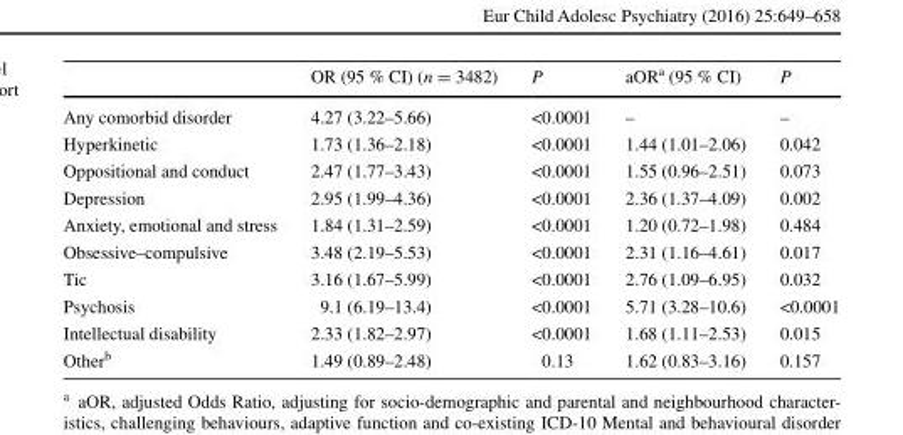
<table><thead><tr><td></td><td>OR (95 % CI) (n = 3482)</td><td>P</td><td>aOR<sup>a</sup> (95 % CI)</td><td>P</td></tr></thead><tbody><tr><td>Any comorbid disorder</td><td>4.27 (3.22–5.66)</td><td>&lt;0.0001</td><td>–</td><td>–</td></tr><tr><td>Hyperkinetic</td><td>1.73 (1.36–2.18)</td><td>&lt;0.0001</td><td>1.44 (1.01–2.06)</td><td>0.042</td></tr><tr><td>Oppositional and conduct</td><td>2.47 (1.77–3.43)</td><td>&lt;0.0001</td><td>1.55 (0.96–2.51)</td><td>0.073</td></tr><tr><td>Depression</td><td>2.95 (1.99–4.36)</td><td>&lt;0.0001</td><td>2.36 (1.37–4.09)</td><td>0.002</td></tr><tr><td>Anxiety, emotional and stress</td><td>1.84 (1.31–2.59)</td><td>&lt;0.0001</td><td>1.20 (0.72–1.98)</td><td>0.484</td></tr><tr><td>Obsessive–compulsive</td><td>3.48 (2.19–5.53)</td><td>&lt;0.0001</td><td>2.31 (1.16–4.61)</td><td>0.017</td></tr><tr><td>Tic</td><td>3.16 (1.67–5.99)</td><td>&lt;0.0001</td><td>2.76 (1.09–6.95)</td><td>0.032</td></tr><tr><td>Psychosis</td><td>9.1 (6.19–13.4)</td><td>&lt;0.0001</td><td>5.71 (3.28–10.6)</td><td>&lt;0.0001</td></tr><tr><td>Intellectual disability</td><td>2.33 (1.82–2.97)</td><td>&lt;0.0001</td><td>1.68 (1.11–2.53)</td><td>0.015</td></tr><tr><td>Other<sup>b</sup></td><td>1.49 (0.89–2.48)</td><td>0.13</td><td>1.62 (0.83–3.16)</td><td>0.157</td></tr></tbody></table>